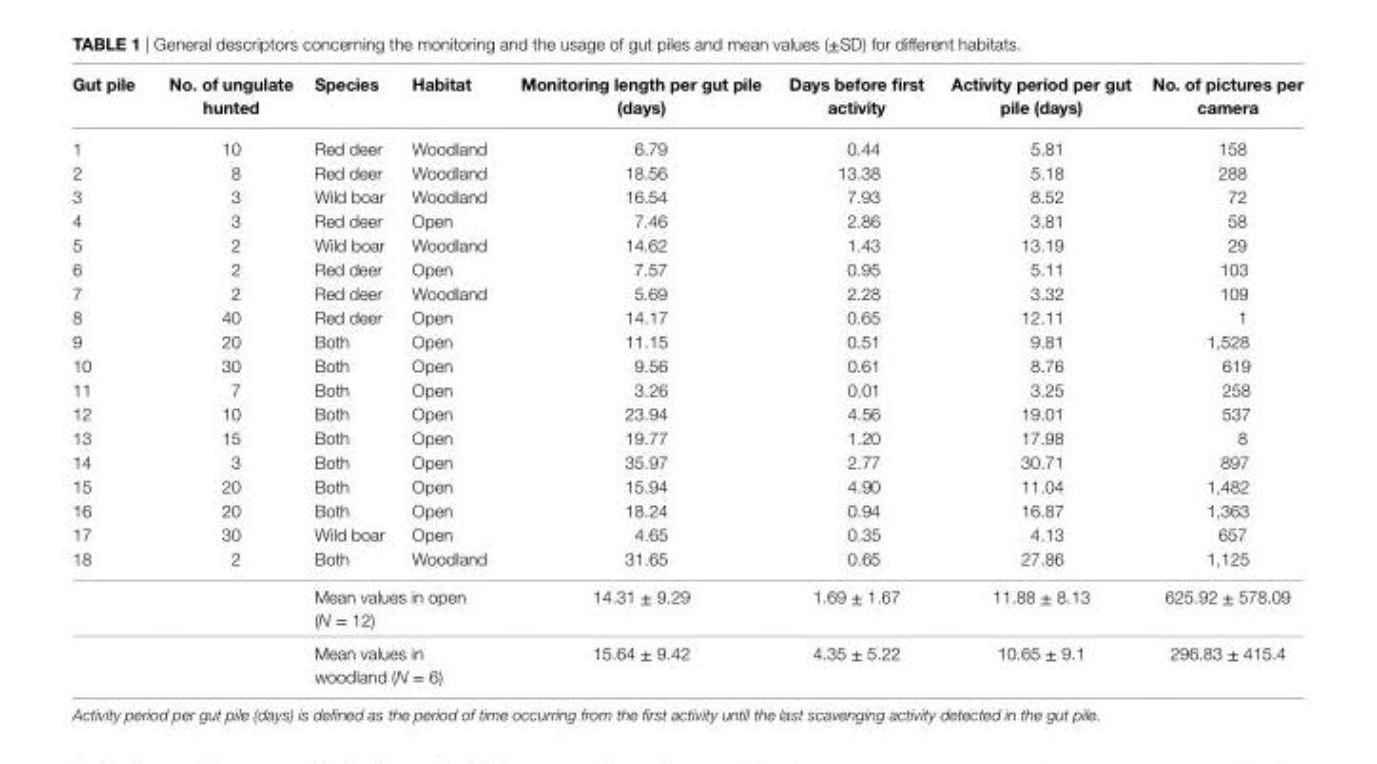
<table><thead><tr><td>gut pile</td><td>no. of ungulate hunted</td><td>species</td><td>habitat</td><td>Monitoring length per gut pile (days)</td><td>Days before first activity</td><td>activity period per gut pile (days)</td><td>no. of pictures per camera</td></tr></thead><tbody><tr><td>1</td><td>10</td><td>Red deer</td><td>Woodland</td><td>6.79</td><td>0.44</td><td>5.81</td><td>158</td></tr><tr><td>2</td><td>8</td><td>Red deer</td><td>Woodland</td><td>18.56</td><td>13.38</td><td>5.18</td><td>288</td></tr><tr><td>3</td><td>3</td><td>Wild boar</td><td>Woodland</td><td>16.54</td><td>7.93</td><td>8.52</td><td>72</td></tr><tr><td>4</td><td>3</td><td>Red deer</td><td>Open</td><td>7.46</td><td>2.86</td><td>3.81</td><td>58</td></tr><tr><td>5</td><td>2</td><td>Wild boar</td><td>Woodland</td><td>14.62</td><td>1.43</td><td>13.19</td><td>29</td></tr><tr><td>6</td><td>2</td><td>Red deer</td><td>Open</td><td>7.57</td><td>0.95</td><td>5.11</td><td>103</td></tr><tr><td>7</td><td>2</td><td>Red deer</td><td>Woodland</td><td>5.69</td><td>2.28</td><td>3.32</td><td>109</td></tr><tr><td>8</td><td>40</td><td>Red deer</td><td>Open</td><td>14.17</td><td>0.65</td><td>12.11</td><td>1</td></tr><tr><td>9</td><td>20</td><td>Both</td><td>Open</td><td>11.15</td><td>0.51</td><td>9.81</td><td>1,528</td></tr><tr><td>10</td><td>30</td><td>Both</td><td>Open</td><td>9.56</td><td>0.61</td><td>8.76</td><td>619</td></tr><tr><td>11</td><td>7</td><td>Both</td><td>Open</td><td>3.26</td><td>0.01</td><td>3.25</td><td>258</td></tr><tr><td>12</td><td>10</td><td>Both</td><td>Open</td><td>23.94</td><td>4.56</td><td>19.01</td><td>537</td></tr><tr><td>13</td><td>15</td><td>Both</td><td>Open</td><td>19.77</td><td>1.20</td><td>17.98</td><td>8</td></tr><tr><td>14</td><td>3</td><td>Both</td><td>Open</td><td>35.97</td><td>2.77</td><td>30.71</td><td>897</td></tr><tr><td>15</td><td>20</td><td>Both</td><td>Open</td><td>15.94</td><td>4.90</td><td>11.04</td><td>1,482</td></tr><tr><td>16</td><td>20</td><td>Both</td><td>Open</td><td>18.24</td><td>0.94</td><td>16.87</td><td>1,363</td></tr><tr><td>17</td><td>30</td><td>Wild boar</td><td>Open</td><td>4.65</td><td>0.35</td><td>4.13</td><td>657</td></tr><tr><td>18</td><td>2</td><td>Both</td><td>Woodland</td><td>31.65</td><td>0.65</td><td>27.86</td><td>1,125</td></tr><tr><td colspan="2"></td><td colspan="2">Mean values in open (N = 12)</td><td>14.31 ± 9.29</td><td>1.69 ± 1.67</td><td>11.88 ± 8.13</td><td>625.92 ± 578.09</td></tr><tr><td colspan="2"></td><td colspan="2">Mean values in woodland (N = 6)</td><td>15.64 ± 9.42</td><td>4.35 ± 5.22</td><td>10.65 ± 9.1</td><td>296.83 ± 415.4</td></tr></tbody></table>